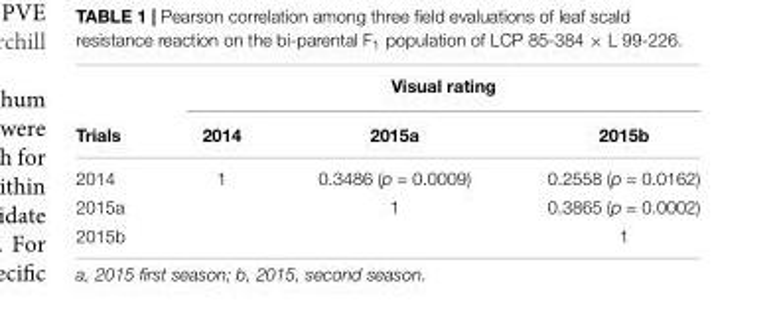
<table><thead><tr><td rowspan="2">Trials</td><td colspan="3">Visual rating</td></tr><tr><td>2014</td><td>2015a</td><td>2015b</td></tr></thead><tbody><tr><td>2014</td><td>1</td><td>0.3486 (p = 0.0009)</td><td>0.2558 (p = 0.0162)</td></tr><tr><td>2015a</td><td></td><td>1</td><td>0.3865 (p = 0.0002)</td></tr><tr><td>2015b</td><td></td><td></td><td>1</td></tr></tbody></table>